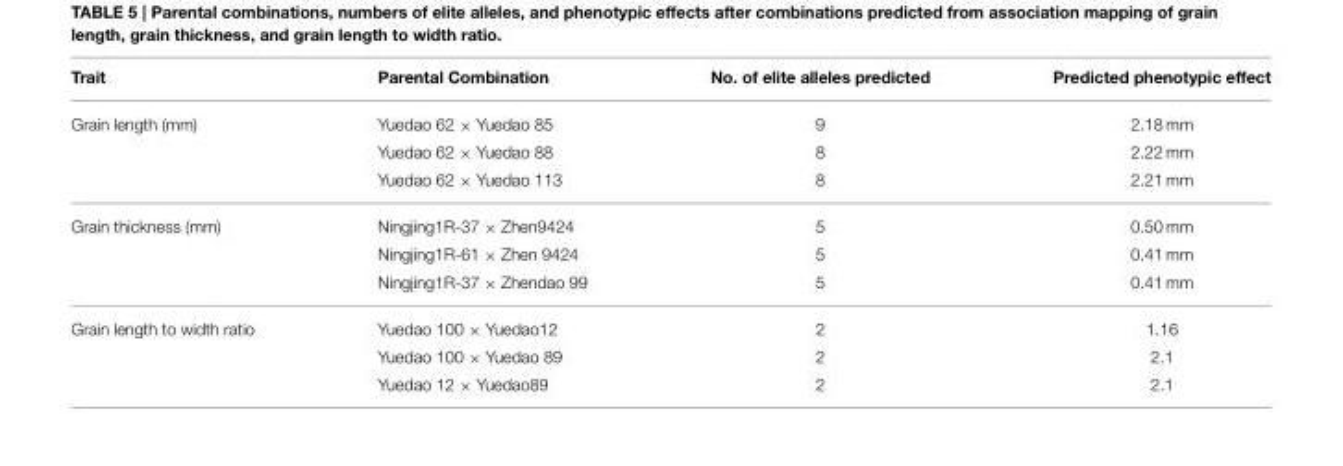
<table><thead><tr><td>Trait</td><td>Parental Combination</td><td>No. of elite alleles predicted</td><td>Predicted phenotypic effect</td></tr></thead><tbody><tr><td rowspan="3">Grain length (mm)</td><td>Yuedao 62 × Yuedao 85</td><td>9</td><td>2.18 mm</td></tr><tr><td>Yuedao 62 × Yuedao 88</td><td>8</td><td>2.22 mm</td></tr><tr><td>Yuedao 62 × Yuedao 113</td><td>8</td><td>2.21 mm</td></tr><tr><td rowspan="3">Grain thickness (mm)</td><td>Ningjing1R-37 × Zhen9424</td><td>5</td><td>0.50 mm</td></tr><tr><td>Ningjing1R-61 × Zhen 9424</td><td>5</td><td>0.41 mm</td></tr><tr><td>Ningjing1R-37 × Zhendao 99</td><td>5</td><td>0.41 mm</td></tr><tr><td rowspan="3">Grain length to width ratio</td><td>Yuedao 100 × Yuedao12</td><td>2</td><td>1.16</td></tr><tr><td>Yuedao 100 × Yuedao 89</td><td>2</td><td>2.1</td></tr><tr><td>Yuedao 12 × Yuedao89</td><td>2</td><td>2.1</td></tr></tbody></table>